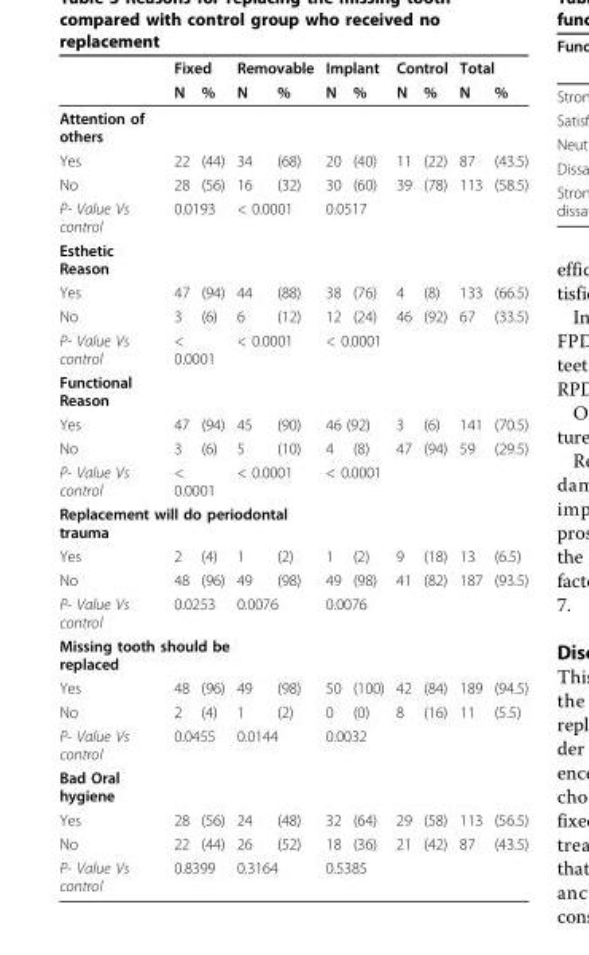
<table><thead><tr><td rowspan="2"></td><td colspan="2">Fixed</td><td colspan="2">Removable</td><td colspan="2">Implant</td><td colspan="2">Control</td><td colspan="2">Total</td></tr><tr><td>N</td><td>%</td><td>N</td><td>%</td><td>N</td><td>%</td><td>N</td><td>%</td><td>N</td><td>%</td></tr></thead><tbody><tr><td colspan="11">Attention of others</td></tr><tr><td>Yes</td><td>22</td><td>(44)</td><td>34</td><td>(68)</td><td>20</td><td>(40)</td><td>11</td><td>(22)</td><td>87</td><td>(43.5)</td></tr><tr><td>No</td><td>28</td><td>(56)</td><td>16</td><td>(32)</td><td>30</td><td>(60)</td><td>39</td><td>(78)</td><td>113</td><td>(58.5)</td></tr><tr><td>P- Value Vs control</td><td colspan="2">0.0193</td><td colspan="2">&lt; 0.0001</td><td colspan="2">0.0517</td><td></td><td></td><td></td><td></td></tr><tr><td colspan="11">Esthetic Reason</td></tr><tr><td>Yes</td><td>47</td><td>(94)</td><td>44</td><td>(88)</td><td>38</td><td>(76)</td><td>4</td><td>(8)</td><td>133</td><td>(66.5)</td></tr><tr><td>No</td><td>3</td><td>(6)</td><td>6</td><td>(12)</td><td>12</td><td>(24)</td><td>46</td><td>(92)</td><td>67</td><td>(33.5)</td></tr><tr><td>P- Value Vs control</td><td colspan="2">&lt; 0.0001</td><td colspan="2">&lt; 0.0001</td><td colspan="2">&lt; 0.0001</td><td></td><td></td><td></td><td></td></tr><tr><td colspan="11">Functional Reason</td></tr><tr><td>Yes</td><td>47</td><td>(94)</td><td>45</td><td>(90)</td><td colspan="2">46 (92)</td><td>3</td><td>(6)</td><td>141</td><td>(70.5)</td></tr><tr><td>No</td><td>3</td><td>(6)</td><td>5</td><td>(10)</td><td>4</td><td>(8)</td><td>47</td><td>(94)</td><td>59</td><td>(29.5)</td></tr><tr><td>P- Value Vs control</td><td colspan="2">&lt; 0.0001</td><td colspan="2">&lt; 0.0001</td><td colspan="2">&lt; 0.0001</td><td></td><td></td><td></td><td></td></tr><tr><td colspan="11">Replacement will do periodontal trauma</td></tr><tr><td>Yes</td><td>2</td><td>(4)</td><td>1</td><td>(2)</td><td>1</td><td>(2)</td><td>9</td><td>(18)</td><td>13</td><td>(6.5)</td></tr><tr><td>No</td><td>48</td><td>(96)</td><td>49</td><td>(98)</td><td>49</td><td>(98)</td><td>41</td><td>(82)</td><td>187</td><td>(93.5)</td></tr><tr><td>P- Value Vs control</td><td colspan="2">0.0253</td><td colspan="2">0.0076</td><td colspan="2">0.0076</td><td></td><td></td><td></td><td></td></tr><tr><td colspan="11">Missing tooth should be replaced</td></tr><tr><td>Yes</td><td>48</td><td>(96)</td><td>49</td><td>(98)</td><td>50</td><td>(100)</td><td>42</td><td>(84)</td><td>189</td><td>(94.5)</td></tr><tr><td>No</td><td>2</td><td>(4)</td><td>1</td><td>(2)</td><td>0</td><td>(0)</td><td>8</td><td>(16)</td><td>11</td><td>(5.5)</td></tr><tr><td>P- Value Vs control</td><td colspan="2">0.0455</td><td colspan="2">0.0144</td><td colspan="2">0.0032</td><td></td><td></td><td></td><td></td></tr><tr><td colspan="11">Bad Oral hygiene</td></tr><tr><td>Yes</td><td>28</td><td>(56)</td><td>24</td><td>(48)</td><td>32</td><td>(64)</td><td>29</td><td>(58)</td><td>113</td><td>(56.5)</td></tr><tr><td>No</td><td>22</td><td>(44)</td><td>26</td><td>(52)</td><td>18</td><td>(36)</td><td>21</td><td>(42)</td><td>87</td><td>(43.5)</td></tr><tr><td>P- Value Vs control</td><td colspan="2">0.8399</td><td colspan="2">0.3164</td><td colspan="2">0.5385</td><td></td><td></td><td></td><td></td></tr></tbody></table>